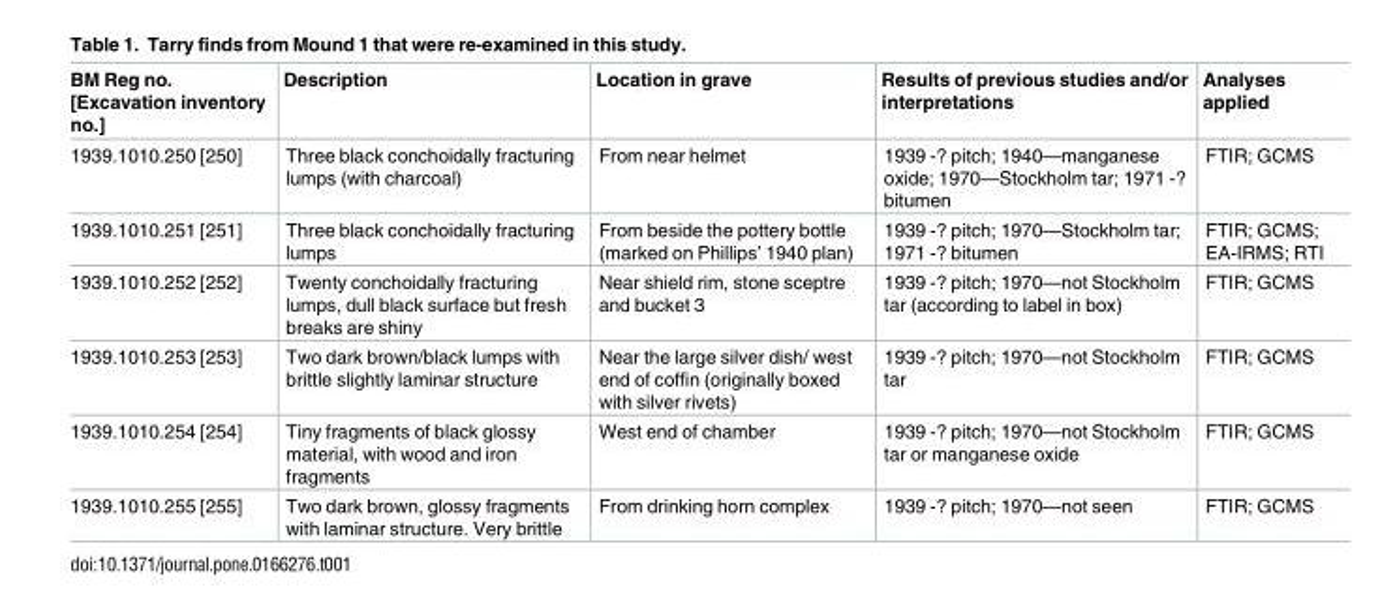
<table><thead><tr><td>BM Reg no. [Excavation inventory no.]</td><td>Description</td><td>Location in grave</td><td>Results of previous studies and/or interpretations</td><td>Analyses applied</td></tr></thead><tbody><tr><td>1939.1010.250 [250]</td><td>Three black conchoidally fracturing lumps (with charcoal)</td><td>From near helmet</td><td>1939 -? pitch; 1940—manganese oxide; 1970—Stockholm tar; 1971 -? bitumen</td><td>FTIR; GCMS</td></tr><tr><td>1939.1010.251 [251]</td><td>Three black conchoidally fracturing lumps</td><td>From beside the pottery bottle (marked on Phillips’ 1940 plan)</td><td>1939 -? pitch; 1970—Stockholm tar; 1971 -? bitumen</td><td>FTIR; GCMS; EA-IRMS; RTI</td></tr><tr><td>1939.1010.252 [252]</td><td>Twenty conchoidally fracturing lumps, dull black surface but fresh breaks are shiny</td><td>Near shield rim, stone sceptre and bucket 3</td><td>1939 -? pitch; 1970—not Stockholm tar (according to label in box)</td><td>FTIR; GCMS</td></tr><tr><td>1939.1010.253 [253]</td><td>Two dark brown/black lumps with brittle slightly laminar structure</td><td>Near the large silver dish/ west end of coffin (originally boxed with silver rivets)</td><td>1939 -? pitch; 1970—not Stockholm tar</td><td>FTIR; GCMS</td></tr><tr><td>1939.1010.254 [254]</td><td>Tiny fragments of black glossy material, with wood and iron fragments</td><td>West end of chamber</td><td>1939 -? pitch; 1970—not Stockholm tar or manganese oxide</td><td>FTIR; GCMS</td></tr><tr><td>1939.1010.255 [255]</td><td>Two dark brown, glossy fragments with laminar structure. Very brittle</td><td>From drinking horn complex</td><td>1939 -? pitch; 1970—not seen</td><td>FTIR; GCMS</td></tr></tbody></table>